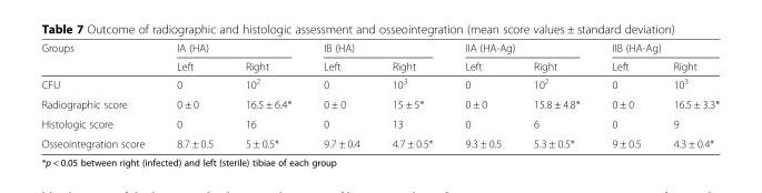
<table><thead><tr><td rowspan="2">Groups</td><td colspan="2">IA (HA)</td><td colspan="2">IB (HA)</td><td colspan="2">IIA (HA-Ag)</td><td colspan="2">IIB (HA-Ag)</td></tr><tr><td>Left</td><td>Right</td><td>Left</td><td>Right</td><td>Left</td><td>Right</td><td>Left</td><td>Right</td></tr></thead><tbody><tr><td>CFU</td><td>0</td><td>10<sup>2</sup></td><td>0</td><td>10<sup>3</sup></td><td>0</td><td>10<sup>2</sup></td><td>0</td><td>10<sup>3</sup></td></tr><tr><td>Radiographic score</td><td>0 ± 0</td><td>16.5 ± 6.4*</td><td>0 ± 0</td><td>15 ± 5*</td><td>0 ± 0</td><td>15.8 ± 4.8*</td><td>0 ± 0</td><td>16.5 ± 3.3*</td></tr><tr><td>Histologic score</td><td>0</td><td>16</td><td>0</td><td>13</td><td>0</td><td>6</td><td>0</td><td>9</td></tr><tr><td>Osseointegration score</td><td>8.7 ± 0.5</td><td>5 ± 0.5*</td><td>9.7 ± 0.4</td><td>4.7 ± 0.5*</td><td>9.3 ± 0.5</td><td>5.3 ± 0.5*</td><td>9 ± 0.5</td><td>4.3 ± 0.4*</td></tr></tbody></table>